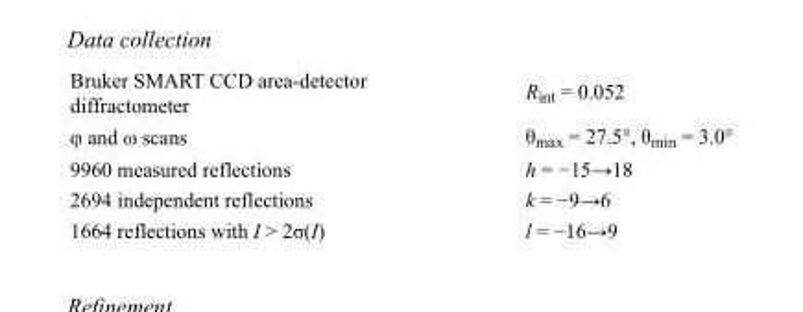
<table><tbody><tr><td>Bruker SMART CCD area-detector diffractometer</td><td>R<sub>int</sub> = 0.052</td></tr><tr><td>φ and ω scans</td><td>θ<sub>max</sub> = 27.5°, θ<sub>min</sub> = 3.0°</td></tr><tr><td>9960 measured reflections</td><td>h = −15→18</td></tr><tr><td>2694 independent reflections</td><td>k = −9→6</td></tr><tr><td>1664 reflections with I &gt; 2σ(I)</td><td>l = −16→9</td></tr></tbody></table>